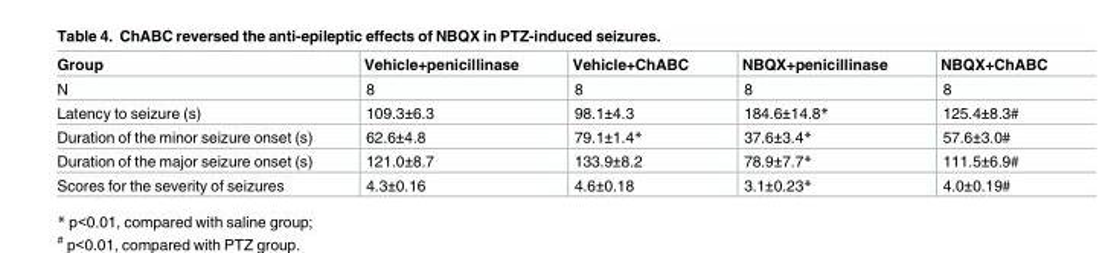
<table><thead><tr><td>Group</td><td>Vehicle+penicillinase</td><td>Vehicle+ChABC</td><td>NBQX+penicillinase</td><td>NBQX+ChABC</td></tr></thead><tbody><tr><td>N</td><td>8</td><td>8</td><td>8</td><td>8</td></tr><tr><td>Latency to seizure (s)</td><td>109.3±6.3</td><td>98.1±4.3</td><td>184.6±14.8*</td><td>125.4±8.3#</td></tr><tr><td>Duration of the minor seizure onset (s)</td><td>62.6±4.8</td><td>79.1±1.4*</td><td>37.6±3.4*</td><td>57.6±3.0#</td></tr><tr><td>Duration of the major seizure onset (s)</td><td>121.0±8.7</td><td>133.9±8.2</td><td>78.9±7.7*</td><td>111.5±6.9#</td></tr><tr><td>Scores for the severity of seizures</td><td>4.3±0.16</td><td>4.6±0.18</td><td>3.1±0.23*</td><td>4.0±0.19#</td></tr></tbody></table>